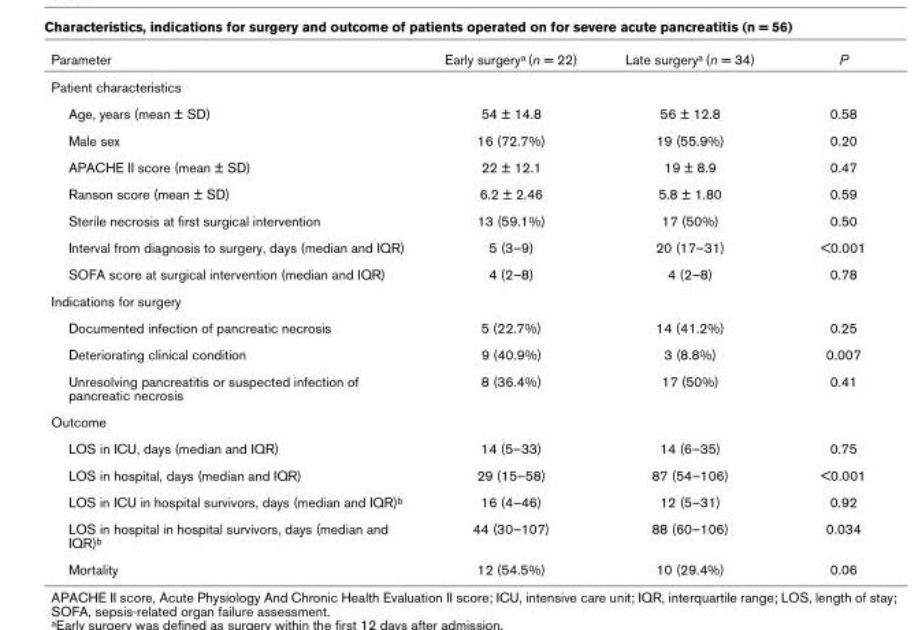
<table><thead><tr><td>Parameter</td><td>Early surgerya (n = 22)</td><td>Late surgerya (n = 34)</td><td>P</td></tr></thead><tbody><tr><td colspan="4">Patient characteristics</td></tr><tr><td>Age, years (mean ± SD)</td><td>54 ± 14.8</td><td>56 ± 12.8</td><td>0.58</td></tr><tr><td>Male sex</td><td>16 (72.7%)</td><td>19 (55.9%)</td><td>0.20</td></tr><tr><td>APACHE II score (mean ± SD)</td><td>22 ± 12.1</td><td>19 ± 8.9</td><td>0.47</td></tr><tr><td>Ranson score (mean ± SD)</td><td>6.2 ± 2.46</td><td>5.8 ± 1.80</td><td>0.59</td></tr><tr><td>Sterile necrosis at first surgical intervention</td><td>13 (59.1%)</td><td>17 (50%)</td><td>0.50</td></tr><tr><td>Interval from diagnosis to surgery, days (median and IQR)</td><td>5 (3–9)</td><td>20 (17–31)</td><td>&lt;0.001</td></tr><tr><td>SOFA score at surgical intervention (median and IQR)</td><td>4 (2–8)</td><td>4 (2–8)</td><td>0.78</td></tr><tr><td colspan="4">Indications for surgery</td></tr><tr><td>Documented infection of pancreatic necrosis</td><td>5 (22.7%)</td><td>14 (41.2%)</td><td>0.25</td></tr><tr><td>Deteriorating clinical condition</td><td>9 (40.9%)</td><td>3 (8.8%)</td><td>0.007</td></tr><tr><td>Unresolving pancreatitis or suspected infection of pancreatic necrosis</td><td>8 (36.4%)</td><td>17 (50%)</td><td>0.41</td></tr><tr><td colspan="4">Outcome</td></tr><tr><td>LOS in ICU, days (median and IQR)</td><td>14 (5–33)</td><td>14 (6–35)</td><td>0.75</td></tr><tr><td>LOS in hospital, days (median and IQR)</td><td>29 (15–58)</td><td>87 (54–106)</td><td>&lt;0.001</td></tr><tr><td>LOS in ICU in hospital survivors, days (median and IQR)b</td><td>16 (4–46)</td><td>12 (5–31)</td><td>0.92</td></tr><tr><td>LOS in hospital in hospital survivors, days (median and IQR)b</td><td>44 (30–107)</td><td>88 (60–106)</td><td>0.034</td></tr><tr><td>Mortality</td><td>12 (54.5%)</td><td>10 (29.4%)</td><td>0.06</td></tr></tbody></table>